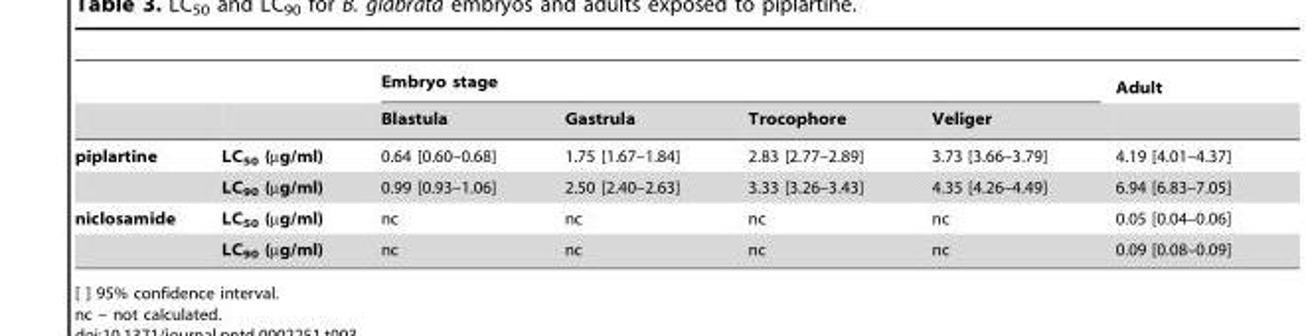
<table><thead><tr><td rowspan="2"></td><td rowspan="2"></td><td colspan="4">Embryo stage</td><td rowspan="2">Adult</td></tr><tr><td>Blastula</td><td>Gastrula</td><td>Trocophore</td><td>Veliger</td></tr></thead><tbody><tr><td rowspan="2">piplartine</td><td>LC<sub>50</sub> (µg/ml)</td><td>0.64 [0.60–0.68]</td><td>1.75 [1.67–1.84]</td><td>2.83 [2.77–2.89]</td><td>3.73 [3.66–3.79]</td><td>4.19 [4.01–4.37]</td></tr><tr><td>LC<sub>90</sub> (µg/ml)</td><td>0.99 [0.93–1.06]</td><td>2.50 [2.40–2.63]</td><td>3.33 [3.26–3.43]</td><td>4.35 [4.26–4.49]</td><td>6.94 [6.83–7.05]</td></tr><tr><td rowspan="2">niclosamide</td><td>LC<sub>50</sub> (µg/ml)</td><td>nc</td><td>nc</td><td>nc</td><td>nc</td><td>0.05 [0.04–0.06]</td></tr><tr><td>LC<sub>90</sub> (µg/ml)</td><td>nc</td><td>nc</td><td>nc</td><td>nc</td><td>0.09 [0.08–0.09]</td></tr></tbody></table>